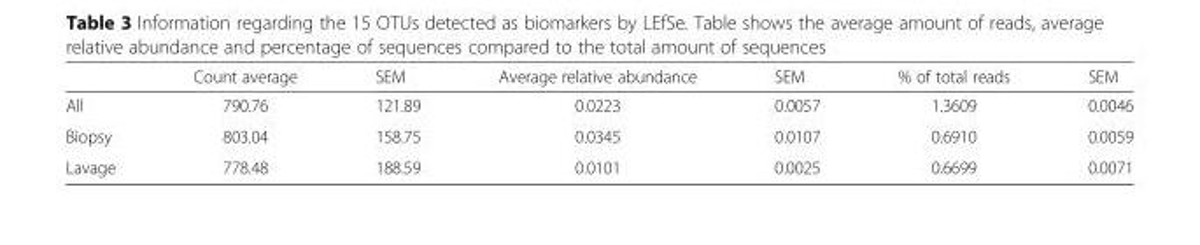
<table><thead><tr><td></td><td>Count average</td><td>SEM</td><td>Average relative abundance</td><td>SEM</td><td>% of total reads</td><td>SEM</td></tr></thead><tbody><tr><td>All</td><td>790.76</td><td>121.89</td><td>0.0223</td><td>0.0057</td><td>1.3609</td><td>0.0046</td></tr><tr><td>Biopsy</td><td>803.04</td><td>158.75</td><td>0.0345</td><td>0.0107</td><td>0.6910</td><td>0.0059</td></tr><tr><td>Lavage</td><td>778.48</td><td>188.59</td><td>0.0101</td><td>0.0025</td><td>0.6699</td><td>0.0071</td></tr></tbody></table>